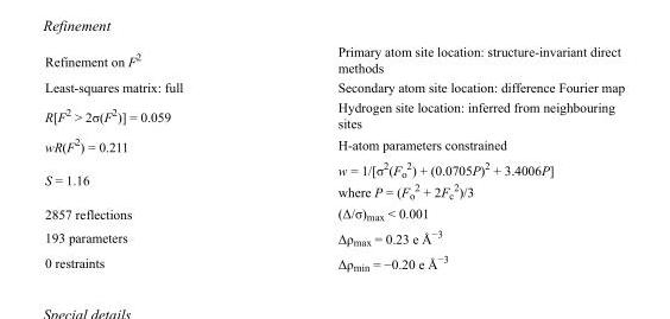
<table><tbody><tr><td>Refinement on F<sup>2</sup></td><td>Primary atom site location: structure-invariant direct methods</td></tr><tr><td>Least-squares matrix: full</td><td>Secondary atom site location: difference Fourier map</td></tr><tr><td>R[F<sup>2</sup> &gt; 2σ(F<sup>2</sup>)] = 0.059</td><td>Hydrogen site location: inferred from neighbouring sites</td></tr><tr><td>wR(F<sup>2</sup>) = 0.211</td><td>H-atom parameters constrained</td></tr><tr><td>S = 1.16</td><td>w = 1/[σ<sup>2</sup>(F<sub>o</sub> <sup>2</sup>) + (0.0705P)<sup>2</sup> + 3.4006P] where P = (F<sub>o</sub> <sup>2</sup> + 2F<sub>c</sub> <sup>2</sup>)/3</td></tr><tr><td>2857 reflections</td><td>(Δ/σ)<sub>max</sub> &lt; 0.001</td></tr><tr><td>193 parameters</td><td>Δρ<sub>max</sub> = 0.23 e Å<sup>−3</sup></td></tr><tr><td>0 restraints</td><td>Δρ<sub>min</sub> = −0.20 e Å<sup>−3</sup></td></tr></tbody></table>